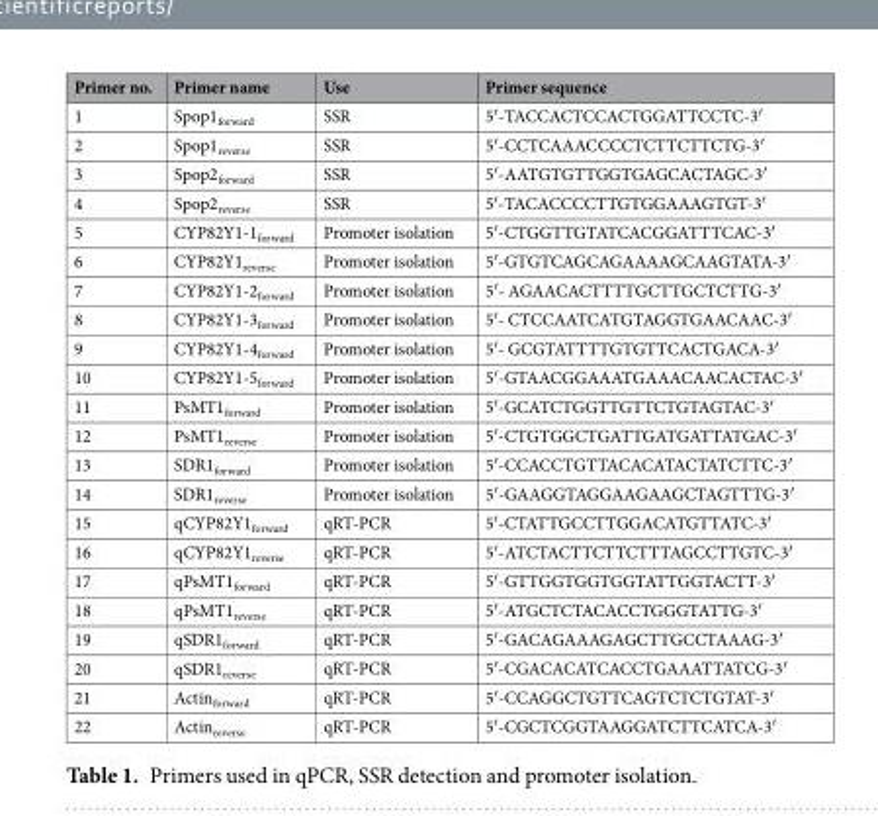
<table><thead><tr><td>Primer no.</td><td>Primer name</td><td>Use</td><td>Primer sequence</td></tr></thead><tbody><tr><td>1</td><td>Spop1<sub>forward</sub></td><td>SSR</td><td>5′-TACCACTCCACTGGATTCCTC-3′</td></tr><tr><td>2</td><td>Spop1<sub>reverse</sub></td><td>SSR</td><td>5′-CCTCAAACCCCTCTTCTTCTG-3′</td></tr><tr><td>3</td><td>Spop2<sub>forward</sub></td><td>SSR</td><td>5′-AATGTGTTGGTGAGCACTAGC-3′</td></tr><tr><td>4</td><td>Spop2<sub>reverse</sub></td><td>SSR</td><td>5′-TACACCCCTTGTGGAAAGTGT-3′</td></tr><tr><td>5</td><td>CYP82Y1-1<sub>forward</sub></td><td>Promoter isolation</td><td>5′-CTGGTTGTATCACGGATTTCAC-3′</td></tr><tr><td>6</td><td>CYP82Y1<sub>reverse</sub></td><td>Promoter isolation</td><td>5′-GTGTCAGCAGAAAAGCAAGTATA-3′</td></tr><tr><td>7</td><td>CYP82Y1-2<sub>forward</sub></td><td>Promoter isolation</td><td>5′- AGAACACTTTTGCTTGCTCTTG-3′</td></tr><tr><td>8</td><td>CYP82Y1-3<sub>forward</sub></td><td>Promoter isolation</td><td>5′- CTCCAATCATGTAGGTGAACAAC-3′</td></tr><tr><td>9</td><td>CYP82Y1-4<sub>forward</sub></td><td>Promoter isolation</td><td>5′- GCGTATTTTGTGTTCACTGACA-3′</td></tr><tr><td>10</td><td>CYP82Y1-5<sub>forward</sub></td><td>Promoter isolation</td><td>5′-GTAACGGAAATGAAACAACACTAC-3′</td></tr><tr><td>11</td><td>PsMT1<sub>forward</sub></td><td>Promoter isolation</td><td>5′-GCATCTGGTTGTTCTGTAGTAC-3′</td></tr><tr><td>12</td><td>PsMT1<sub>reverse</sub></td><td>Promoter isolation</td><td>5′-CTGTGGCTGATTGATGATTATGAC-3′</td></tr><tr><td>13</td><td>SDR1<sub>forward</sub></td><td>Promoter isolation</td><td>5′-CCACCTGTTACACATACTATCTTC-3′</td></tr><tr><td>14</td><td>SDR1<sub>reverse</sub></td><td>Promoter isolation</td><td>5′-GAAGGTAGGAAGAAGCTAGTTTG-3′</td></tr><tr><td>15</td><td>qCYP82Y1<sub>forward</sub></td><td>qRT-PCR</td><td>5′-CTATTGCCTTGGACATGTTATC-3′</td></tr><tr><td>16</td><td>qCYP82Y1<sub>reverse</sub></td><td>qRT-PCR</td><td>5′-ATCTACTTCTTCTTTAGCCTTGTC-3′</td></tr><tr><td>17</td><td>qPsMT1<sub>forward</sub></td><td>qRT-PCR</td><td>5′-GTTGGTGGTGGTATTGGTACTT-3′</td></tr><tr><td>18</td><td>qPsMT1<sub>reverse</sub></td><td>qRT-PCR</td><td>5′-ATGCTCTACACCTGGGTATTG-3′</td></tr><tr><td>19</td><td>qSDR1<sub>forward</sub></td><td>qRT-PCR</td><td>5′-GACAGAAAGAGCTTGCCTAAAG-3′</td></tr><tr><td>20</td><td>qSDR1<sub>reverse</sub></td><td>qRT-PCR</td><td>5′-CGACACATCACCTGAAATTATCG-3′</td></tr><tr><td>21</td><td>Actin<sub>forward</sub></td><td>qRT-PCR</td><td>5′-CCAGGCTGTTCAGTCTCTGTAT-3′</td></tr><tr><td>22</td><td>Actin<sub>reverse</sub></td><td>qRT-PCR</td><td>5′-CGCTCGGTAAGGATCTTCATCA-3′</td></tr></tbody></table>